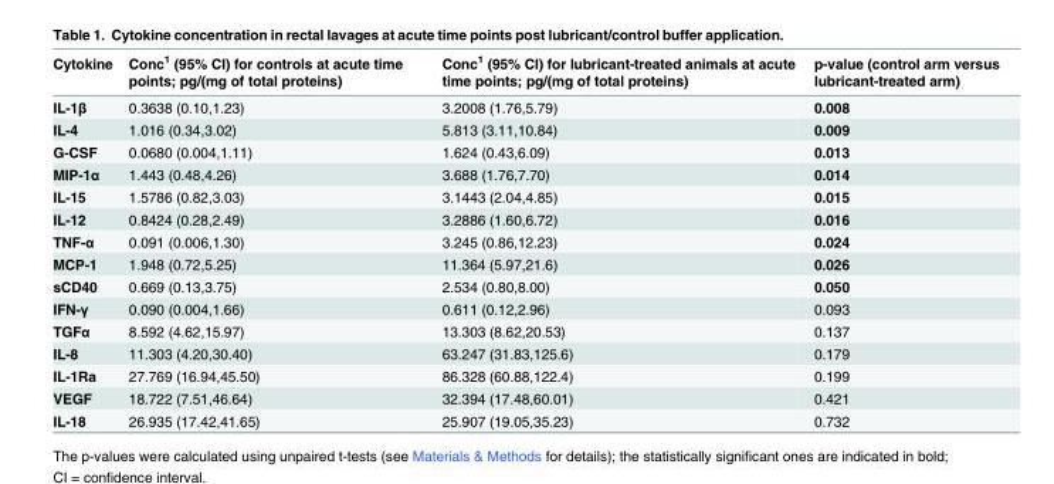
<table><thead><tr><td>Cytokine</td><td>Conc<sup>1</sup> (95% CI) for controls at acute time points; pg/(mg of total proteins)</td><td>Conc<sup>1</sup> (95% CI) for lubricant-treated animals at acute time points; pg/(mg of total proteins)</td><td>p-value (control arm versus lubricant-treated arm)</td></tr></thead><tbody><tr><td>IL-1β</td><td>0.3638 (0.10,1.23)</td><td>3.2008 (1.76,5.79)</td><td>0.008</td></tr><tr><td>IL-4</td><td>1.016 (0.34,3.02)</td><td>5.813 (3.11,10.84)</td><td>0.009</td></tr><tr><td>G-CSF</td><td>0.0680 (0.004,1.11)</td><td>1.624 (0.43,6.09)</td><td>0.013</td></tr><tr><td>MIP-1α</td><td>1.443 (0.48,4.26)</td><td>3.688 (1.76,7.70)</td><td>0.014</td></tr><tr><td>IL-15</td><td>1.5786 (0.82,3.03)</td><td>3.1443 (2.04,4.85)</td><td>0.015</td></tr><tr><td>IL-12</td><td>0.8424 (0.28,2.49)</td><td>3.2886 (1.60,6.72)</td><td>0.016</td></tr><tr><td>TNF-α</td><td>0.091 (0.006,1.30)</td><td>3.245 (0.86,12.23)</td><td>0.024</td></tr><tr><td>MCP-1</td><td>1.948 (0.72,5.25)</td><td>11.364 (5.97,21.6)</td><td>0.026</td></tr><tr><td>sCD40</td><td>0.669 (0.13,3.75)</td><td>2.534 (0.80,8.00)</td><td>0.050</td></tr><tr><td>IFN-γ</td><td>0.090 (0.004,1.66)</td><td>0.611 (0.12,2.96)</td><td>0.093</td></tr><tr><td>TGFα</td><td>8.592 (4.62,15.97)</td><td>13.303 (8.62,20.53)</td><td>0.137</td></tr><tr><td>IL-8</td><td>11.303 (4.20,30.40)</td><td>63.247 (31.83,125.6)</td><td>0.179</td></tr><tr><td>IL-1Ra</td><td>27.769 (16.94,45.50)</td><td>86.328 (60.88,122.4)</td><td>0.199</td></tr><tr><td>VEGF</td><td>18.722 (7.51,46.64)</td><td>32.394 (17.48,60.01)</td><td>0.421</td></tr><tr><td>IL-18</td><td>26.935 (17.42,41.65)</td><td>25.907 (19.05,35.23)</td><td>0.732</td></tr></tbody></table>